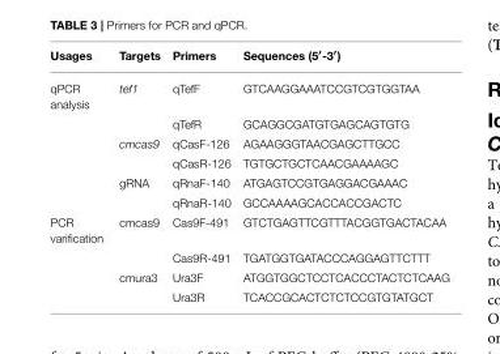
<table><thead><tr><td>Usages</td><td>Targets</td><td>Primers</td><td>Sequences (5′-3′)</td></tr></thead><tbody><tr><td rowspan="6">qPCR analysis</td><td>tef1</td><td>qTefF</td><td>GTCAAGGAAATCCGTCGTGGTAA</td></tr><tr><td></td><td>qTefR</td><td>GCAGGCGATGTGAGCAGTGTG</td></tr><tr><td>cmcas9</td><td>qCasF-126</td><td>AGAAGGGTAACGAGCTTGCC</td></tr><tr><td></td><td>qCasR-126</td><td>TGTGCTGCTCAACGAAAAGC</td></tr><tr><td>gRNA</td><td>qRnaF-140</td><td>ATGAGTCCGTGAGGACGAAAC</td></tr><tr><td></td><td>qRnaR-140</td><td>GCCAAAAGCACCACCGACTC</td></tr><tr><td rowspan="4">PCR varification</td><td>cmcas9</td><td>Cas9F-491</td><td>GTCTGAGTTCGTTTACGGTGACTACAA</td></tr><tr><td></td><td>Cas9R-491</td><td>TGATGGTGATACCCAGGAGTTCTTT</td></tr><tr><td>cmura3</td><td>Ura3F</td><td>ATGGTGGCTCCTCACCCTACTCTCAAG</td></tr><tr><td></td><td>Ura3R</td><td>TCACCGCACTCTCTCCGTGTATGCT</td></tr></tbody></table>